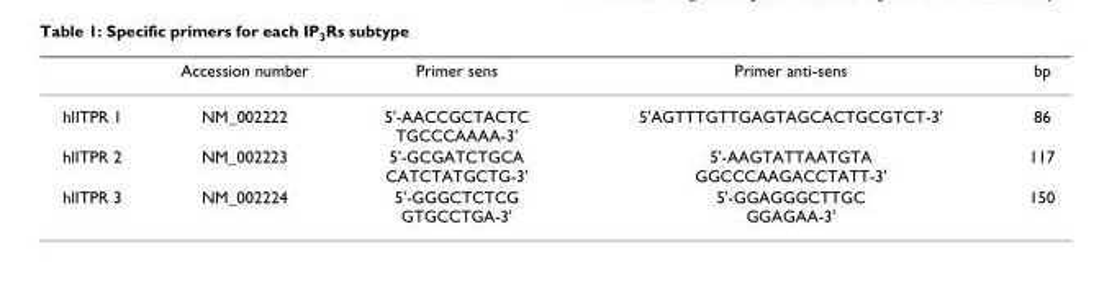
<table><thead><tr><td></td><td>Accession number</td><td>Primer sens</td><td>Primer anti-sens</td><td>bp</td></tr></thead><tbody><tr><td>hlITPR 1</td><td>NM_002222</td><td>5&#x27;-AACCGCTACTC TGCCCAAAA-3&#x27;</td><td>5&#x27;AGTTTGTTGAGTAGCACTGCGTCT-3&#x27;</td><td>86</td></tr><tr><td>hlITPR 2</td><td>NM_002223</td><td>5&#x27;-GCGATCTGCA CATCTATGCTG-3&#x27;</td><td>5&#x27;-AAGTATTAATGTA GGCCCAAGACCTATT-3&#x27;</td><td>117</td></tr><tr><td>hlITPR 3</td><td>NM_002224</td><td>5&#x27;-GGGCTCTCG GTGCCTGA-3&#x27;</td><td>5&#x27;-GGAGGGCTTGC GGAGAA-3&#x27;</td><td>150</td></tr></tbody></table>